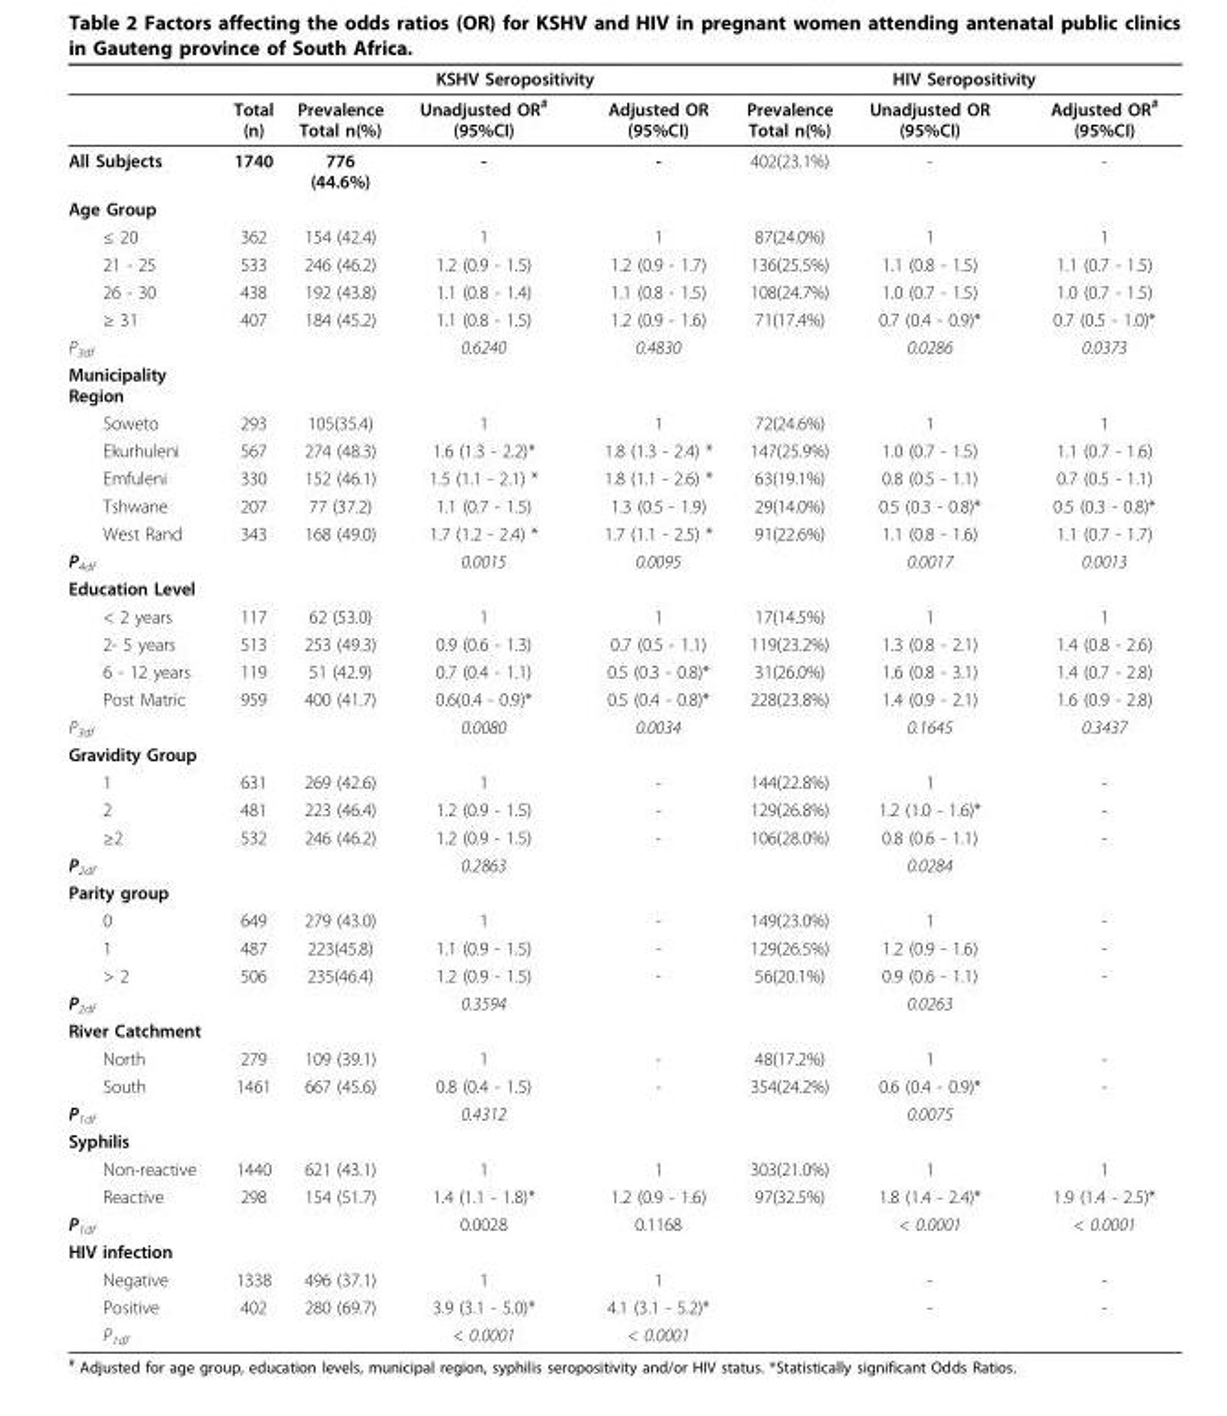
<table><thead><tr><td rowspan="2"></td><td rowspan="2">Total (n)</td><td colspan="3">KSHV Seropositivity</td><td colspan="3">HIV Seropositivity</td></tr><tr><td>Prevalence Total n(%)</td><td>Unadjusted OR<sup>#</sup> (95%CI)</td><td>Adjusted OR (95%CI)</td><td>Prevalence Total n(%)</td><td>Unadjusted OR (95%CI)</td><td>Adjusted OR<sup>#</sup> (95%CI)</td></tr></thead><tbody><tr><td>All Subjects</td><td>1740</td><td>776 (44.6%)</td><td>-</td><td>-</td><td>402(23.1%)</td><td>-</td><td>-</td></tr><tr><td colspan="8">Age Group</td></tr><tr><td>≤ 20</td><td>362</td><td>154 (42.4)</td><td>1</td><td>1</td><td>87(24.0%)</td><td>1</td><td>1</td></tr><tr><td>21 - 25</td><td>533</td><td>246 (46.2)</td><td>1.2 (0.9 - 1.5)</td><td>1.2 (0.9 - 1.7)</td><td>136(25.5%)</td><td>1.1 (0.8 - 1.5)</td><td>1.1 (0.7 - 1.5)</td></tr><tr><td>26 - 30</td><td>438</td><td>192 (43.8)</td><td>1.1 (0.8 - 1.4)</td><td>1.1 (0.8 - 1.5)</td><td>108(24.7%)</td><td>1.0 (0.7 - 1.5)</td><td>1.0 (0.7 - 1.5)</td></tr><tr><td>≥ 31</td><td>407</td><td>184 (45.2)</td><td>1.1 (0.8 - 1.5)</td><td>1.2 (0.9 - 1.6)</td><td>71(17.4%)</td><td>0.7 (0.4 - 0.9)*</td><td>0.7 (0.5 - 1.0)*</td></tr><tr><td>P<sub>3df</sub></td><td></td><td></td><td>0.6240</td><td>0.4830</td><td></td><td>0.0286</td><td>0.0373</td></tr><tr><td colspan="8">Municipality Region</td></tr><tr><td>Soweto</td><td>293</td><td>105(35.4)</td><td>1</td><td>1</td><td>72(24.6%)</td><td>1</td><td>1</td></tr><tr><td>Ekurhuleni</td><td>567</td><td>274 (48.3)</td><td>1.6 (1.3 - 2.2)*</td><td>1.8 (1.3 - 2.4) *</td><td>147(25.9%)</td><td>1.0 (0.7 - 1.5)</td><td>1.1 (0.7 - 1.6)</td></tr><tr><td>Emfuleni</td><td>330</td><td>152 (46.1)</td><td>1.5 (1.1 - 2.1) *</td><td>1.8 (1.1 - 2.6) *</td><td>63(19.1%)</td><td>0.8 (0.5 - 1.1)</td><td>0.7 (0.5 - 1.1)</td></tr><tr><td>Tshwane</td><td>207</td><td>77 (37.2)</td><td>1.1 (0.7 - 1.5)</td><td>1.3 (0.5 - 1.9)</td><td>29(14.0%)</td><td>0.5 (0.3 - 0.8)*</td><td>0.5 (0.3 - 0.8)*</td></tr><tr><td>West Rand</td><td>343</td><td>168 (49.0)</td><td>1.7 (1.2 - 2.4) *</td><td>1.7 (1.1 - 2.5) *</td><td>91(22.6%)</td><td>1.1 (0.8 - 1.6)</td><td>1.1 (0.7 - 1.7)</td></tr><tr><td>P<sub>4df</sub></td><td></td><td></td><td>0.0015</td><td>0.0095</td><td></td><td>0.0017</td><td>0.0013</td></tr><tr><td colspan="8">Education Level</td></tr><tr><td>&lt; 2 years</td><td>117</td><td>62 (53.0)</td><td>1</td><td>1</td><td>17(14.5%)</td><td>1</td><td>1</td></tr><tr><td>2- 5 years</td><td>513</td><td>253 (49.3)</td><td>0.9 (0.6 - 1.3)</td><td>0.7 (0.5 - 1.1)</td><td>119(23.2%)</td><td>1.3 (0.8 - 2.1)</td><td>1.4 (0.8 - 2.6)</td></tr><tr><td>6 - 12 years</td><td>119</td><td>51 (42.9)</td><td>0.7 (0.4 - 1.1)</td><td>0.5 (0.3 - 0.8)*</td><td>31(26.0%)</td><td>1.6 (0.8 - 3.1)</td><td>1.4 (0.7 - 2.8)</td></tr><tr><td>Post Matric</td><td>959</td><td>400 (41.7)</td><td>0.6(0.4 - 0.9)*</td><td>0.5 (0.4 - 0.8)*</td><td>228(23.8%)</td><td>1.4 (0.9 - 2.1)</td><td>1.6 (0.9 - 2.8)</td></tr><tr><td>P<sub>3df</sub></td><td></td><td></td><td>0.0080</td><td>0.0034</td><td></td><td>0.1645</td><td>0.3437</td></tr><tr><td colspan="8">Gravidity Group</td></tr><tr><td>1</td><td>631</td><td>269 (42.6)</td><td>1</td><td>-</td><td>144(22.8%)</td><td>1</td><td>-</td></tr><tr><td>2</td><td>481</td><td>223 (46.4)</td><td>1.2 (0.9 - 1.5)</td><td>-</td><td>129(26.8%)</td><td>1.2 (1.0 - 1.6)*</td><td>-</td></tr><tr><td>≥2</td><td>532</td><td>246 (46.2)</td><td>1.2 (0.9 - 1.5)</td><td>-</td><td>106(28.0%)</td><td>0.8 (0.6 - 1.1)</td><td>-</td></tr><tr><td>P<sub>2df</sub></td><td></td><td></td><td>0.2863</td><td></td><td></td><td>0.0284</td><td></td></tr><tr><td colspan="8">Parity group</td></tr><tr><td>0</td><td>649</td><td>279 (43.0)</td><td>1</td><td>-</td><td>149(23.0%)</td><td>1</td><td>-</td></tr><tr><td>1</td><td>487</td><td>223(45.8)</td><td>1.1 (0.9 - 1.5)</td><td>-</td><td>129(26.5%)</td><td>1.2 (0.9 - 1.6)</td><td>-</td></tr><tr><td>&gt; 2</td><td>506</td><td>235(46.4)</td><td>1.2 (0.9 - 1.5)</td><td>-</td><td>56(20.1%)</td><td>0.9 (0.6 - 1.1)</td><td>-</td></tr><tr><td>P<sub>2df</sub></td><td></td><td></td><td>0.3594</td><td></td><td></td><td>0.0263</td><td></td></tr><tr><td colspan="8">River Catchment</td></tr><tr><td>North</td><td>279</td><td>109 (39.1)</td><td>1</td><td>-</td><td>48(17.2%)</td><td>1</td><td>-</td></tr><tr><td>South</td><td>1461</td><td>667 (45.6)</td><td>0.8 (0.4 - 1.5)</td><td>-</td><td>354(24.2%)</td><td>0.6 (0.4 - 0.9)*</td><td>-</td></tr><tr><td>P<sub>1df</sub></td><td></td><td></td><td>0.4312</td><td></td><td></td><td>0.0075</td><td></td></tr><tr><td colspan="8">Syphilis</td></tr><tr><td>Non-reactive</td><td>1440</td><td>621 (43.1)</td><td>1</td><td>1</td><td>303(21.0%)</td><td>1</td><td>1</td></tr><tr><td>Reactive</td><td>298</td><td>154 (51.7)</td><td>1.4 (1.1 - 1.8)*</td><td>1.2 (0.9 - 1.6)</td><td>97(32.5%)</td><td>1.8 (1.4 - 2.4)*</td><td>1.9 (1.4 - 2.5)*</td></tr><tr><td>P<sub>1df</sub></td><td></td><td></td><td>0.0028</td><td>0.1168</td><td></td><td>&lt; 0.0001</td><td>&lt; 0.0001</td></tr><tr><td colspan="8">HIV infection</td></tr><tr><td>Negative</td><td>1338</td><td>496 (37.1)</td><td>1</td><td>1</td><td></td><td>-</td><td>-</td></tr><tr><td>Positive</td><td>402</td><td>280 (69.7)</td><td>3.9 (3.1 - 5.0)*</td><td>4.1 (3.1 - 5.2)*</td><td></td><td>-</td><td>-</td></tr><tr><td>P<sub>1df</sub></td><td></td><td></td><td>&lt; 0.0001</td><td>&lt; 0.0001</td><td></td><td></td><td></td></tr></tbody></table>